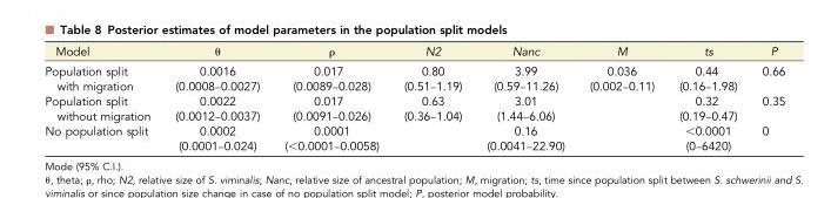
<table><thead><tr><td>Model</td><td>θ</td><td>ρ</td><td>N2</td><td>Nanc</td><td>M</td><td>ts</td><td>P</td></tr></thead><tbody><tr><td>Population split with migration</td><td>0.0016 (0.0008–0.0027)</td><td>0.017 (0.0089–0.028)</td><td>0.80 (0.51–1.19)</td><td>3.99 (0.59–11.26)</td><td>0.036 (0.002–0.11)</td><td>0.44 (0.16–1.98)</td><td>0.66</td></tr><tr><td>Population split without migration</td><td>0.0022 (0.0012–0.0037)</td><td>0.017 (0.0091–0.026)</td><td>0.63 (0.36–1.04)</td><td>3.01 (1.44–6.06)</td><td></td><td>0.32 (0.19–0.47)</td><td>0.35</td></tr><tr><td>No population split</td><td>0.0002 (0.0001–0.024)</td><td>0.0001 (&lt;0.0001–0.0058)</td><td></td><td>0.16 (0.0041–22.90)</td><td></td><td>&lt;0.0001 (0–6420)</td><td>0</td></tr></tbody></table>